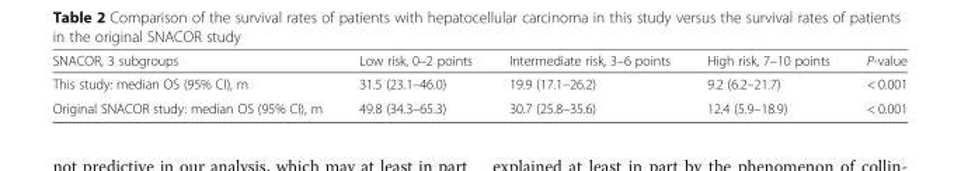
<table><thead><tr><td>SNACOR, 3 subgroups</td><td>Low risk, 0–2 points</td><td>Intermediate risk, 3–6 points</td><td>High risk, 7–10 points</td><td>P-value</td></tr></thead><tbody><tr><td>This study: median OS (95% CI), m</td><td>31.5 (23.1–46.0)</td><td>19.9 (17.1–26.2)</td><td>9.2 (6.2–21.7)</td><td>&lt; 0.001</td></tr><tr><td>Original SNACOR study: median OS (95% CI), m</td><td>49.8 (34.3–65.3)</td><td>30.7 (25.8–35.6)</td><td>12.4 (5.9–18.9)</td><td>&lt; 0.001</td></tr></tbody></table>